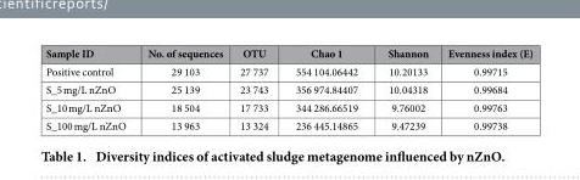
<table><thead><tr><td>Sample ID</td><td>No. of sequences</td><td>OTU</td><td>Chao 1</td><td>Shannon</td><td>Evenness index (E)</td></tr></thead><tbody><tr><td>Positive control</td><td>29 103</td><td>27 737</td><td>554 104.06442</td><td>10.20133</td><td>0.99715</td></tr><tr><td>S_5 mg/L nZnO</td><td>25 139</td><td>23 743</td><td>356 974.84407</td><td>10.04318</td><td>0.99684</td></tr><tr><td>S_10 mg/L nZnO</td><td>18 504</td><td>17 733</td><td>344 286.66519</td><td>9.76002</td><td>0.99763</td></tr><tr><td>S_100 mg/L nZnO</td><td>13 963</td><td>13 324</td><td>236 445.14865</td><td>9.47239</td><td>0.99738</td></tr></tbody></table>